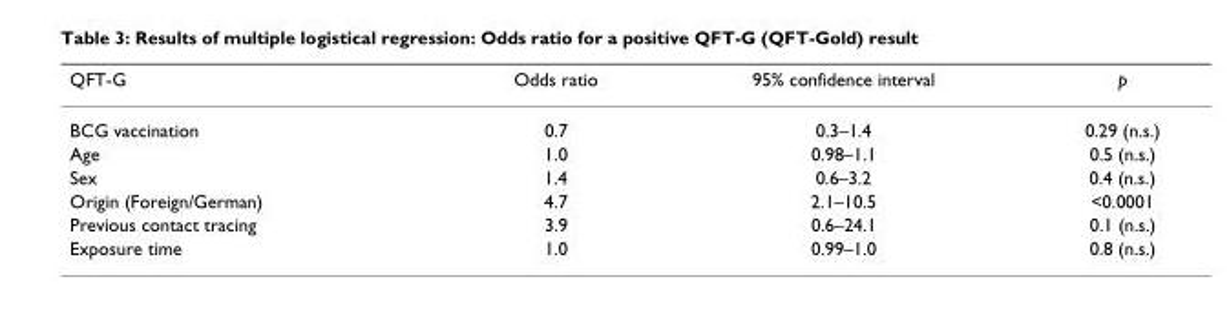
<table><thead><tr><td>QFT-G</td><td>Odds ratio</td><td>95% confidence interval</td><td>p</td></tr></thead><tbody><tr><td>BCG vaccination</td><td>0.7</td><td>0.3–1.4</td><td>0.29 (n.s.)</td></tr><tr><td>Age</td><td>1.0</td><td>0.98–1.1</td><td>0.5 (n.s.)</td></tr><tr><td>Sex</td><td>1.4</td><td>0.6–3.2</td><td>0.4 (n.s.)</td></tr><tr><td>Origin (Foreign/German)</td><td>4.7</td><td>2.1–10.5</td><td>&lt;0.0001</td></tr><tr><td>Previous contact tracing</td><td>3.9</td><td>0.6–24.1</td><td>0.1 (n.s.)</td></tr><tr><td>Exposure time</td><td>1.0</td><td>0.99–1.0</td><td>0.8 (n.s.)</td></tr></tbody></table>